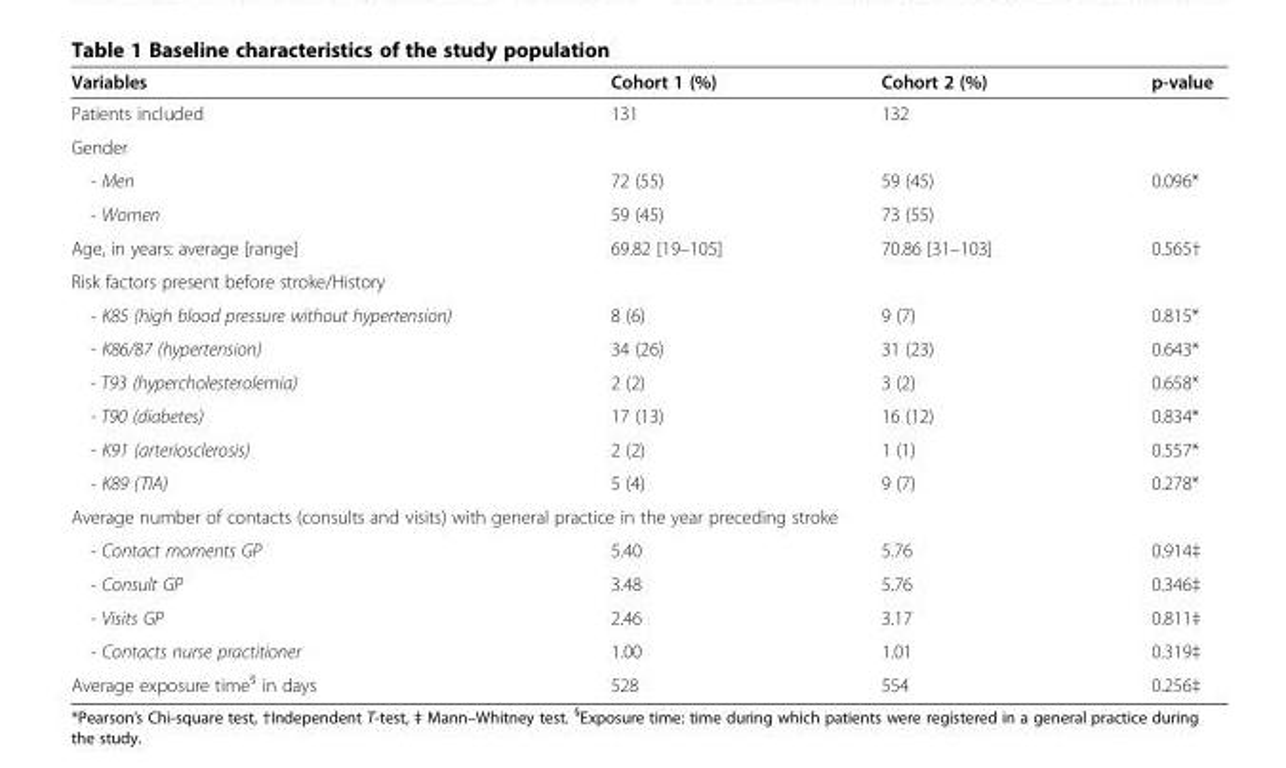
<table><thead><tr><td>Variables</td><td>Cohort 1 (%)</td><td>Cohort 2 (%)</td><td>p-value</td></tr></thead><tbody><tr><td>Patients included</td><td>131</td><td>132</td><td></td></tr><tr><td colspan="4">Gender</td></tr><tr><td>- Men</td><td>72 (55)</td><td>59 (45)</td><td>0.096*</td></tr><tr><td>- Women</td><td>59 (45)</td><td>73 (55)</td><td></td></tr><tr><td>Age, in years: average [range]</td><td>69.82 [19–105]</td><td>70.86 [31–103]</td><td>0.565†</td></tr><tr><td colspan="4">Risk factors present before stroke/History</td></tr><tr><td>- K85 (high blood pressure without hypertension)</td><td>8 (6)</td><td>9 (7)</td><td>0.815*</td></tr><tr><td>- K86/87 (hypertension)</td><td>34 (26)</td><td>31 (23)</td><td>0.643*</td></tr><tr><td>- T93 (hypercholesterolemia)</td><td>2 (2)</td><td>3 (2)</td><td>0.658*</td></tr><tr><td>- T90 (diabetes)</td><td>17 (13)</td><td>16 (12)</td><td>0.834*</td></tr><tr><td>- K91 (arteriosclerosis)</td><td>2 (2)</td><td>1 (1)</td><td>0.557*</td></tr><tr><td>- K89 (TIA)</td><td>5 (4)</td><td>9 (7)</td><td>0.278*</td></tr><tr><td colspan="4">Average number of contacts (consults and visits) with general practice in the year preceding stroke</td></tr><tr><td>- Contact moments GP</td><td>5.40</td><td>5.76</td><td>0.914‡</td></tr><tr><td>- Consult GP</td><td>3.48</td><td>5.76</td><td>0.346‡</td></tr><tr><td>- Visits GP</td><td>2.46</td><td>3.17</td><td>0.811‡</td></tr><tr><td>- Contacts nurse practitioner</td><td>1.00</td><td>1.01</td><td>0.319‡</td></tr><tr><td>Average exposure time<sup>§</sup> in days</td><td>528</td><td>554</td><td>0.256‡</td></tr></tbody></table>